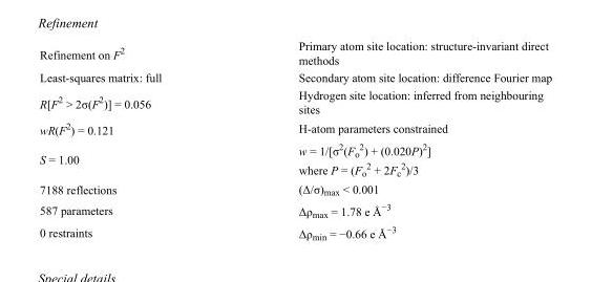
<table><tbody><tr><td>Refinement on F<sup>2</sup></td><td>Primary atom site location: structure-invariant direct methods</td></tr><tr><td>Least-squares matrix: full</td><td>Secondary atom site location: difference Fourier map</td></tr><tr><td>R[F<sup>2</sup> &gt; 2σ(F<sup>2</sup>)] = 0.056</td><td>Hydrogen site location: inferred from neighbouring sites</td></tr><tr><td>wR(F<sup>2</sup>) = 0.121</td><td>H-atom parameters constrained</td></tr><tr><td>S = 1.00</td><td>w = 1/[σ<sup>2</sup>(F<sub>o</sub> <sup>2</sup>) + (0.020P)<sup>2</sup>] where P = (F<sub>o</sub> <sup>2</sup> + 2F<sub>c</sub> <sup>2</sup>)/3</td></tr><tr><td>7188 reflections</td><td>(Δ/σ)<sub>max</sub> &lt; 0.001</td></tr><tr><td>587 parameters</td><td>Δρ<sub>max</sub> = 1.78 e Å<sup>−3</sup></td></tr><tr><td>0 restraints</td><td>Δρ<sub>min</sub> = −0.66 e Å<sup>−3</sup></td></tr></tbody></table>